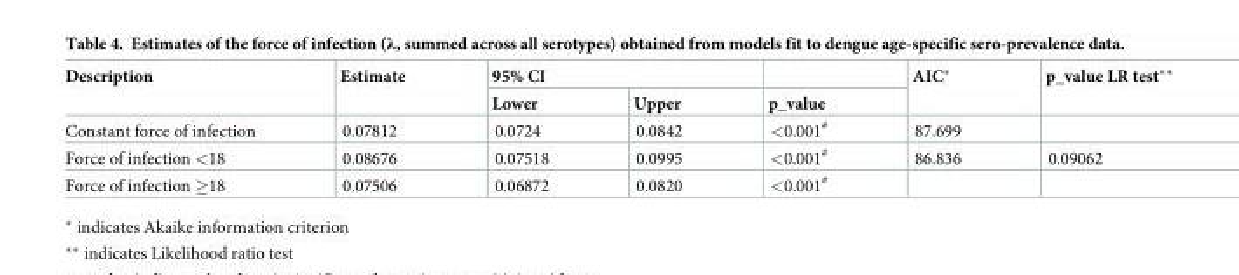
<table><thead><tr><td rowspan="2">Description</td><td rowspan="2">Estimate</td><td colspan="2">95% CI</td><td rowspan="2">p_value</td><td rowspan="2">AIC*</td><td rowspan="2">p_value LR test**</td></tr><tr><td>Lower</td><td>Upper</td></tr></thead><tbody><tr><td>Constant force of infection</td><td>0.07812</td><td>0.0724</td><td>0.0842</td><td>&lt;0.001<sup>#</sup></td><td>87.699</td><td></td></tr><tr><td>Force of infection &lt;18</td><td>0.08676</td><td>0.07518</td><td>0.0995</td><td>&lt;0.001<sup>#</sup></td><td>86.836</td><td>0.09062</td></tr><tr><td>Force of infection ≥18</td><td>0.07506</td><td>0.06872</td><td>0.0820</td><td>&lt;0.001<sup>#</sup></td><td></td><td></td></tr></tbody></table>